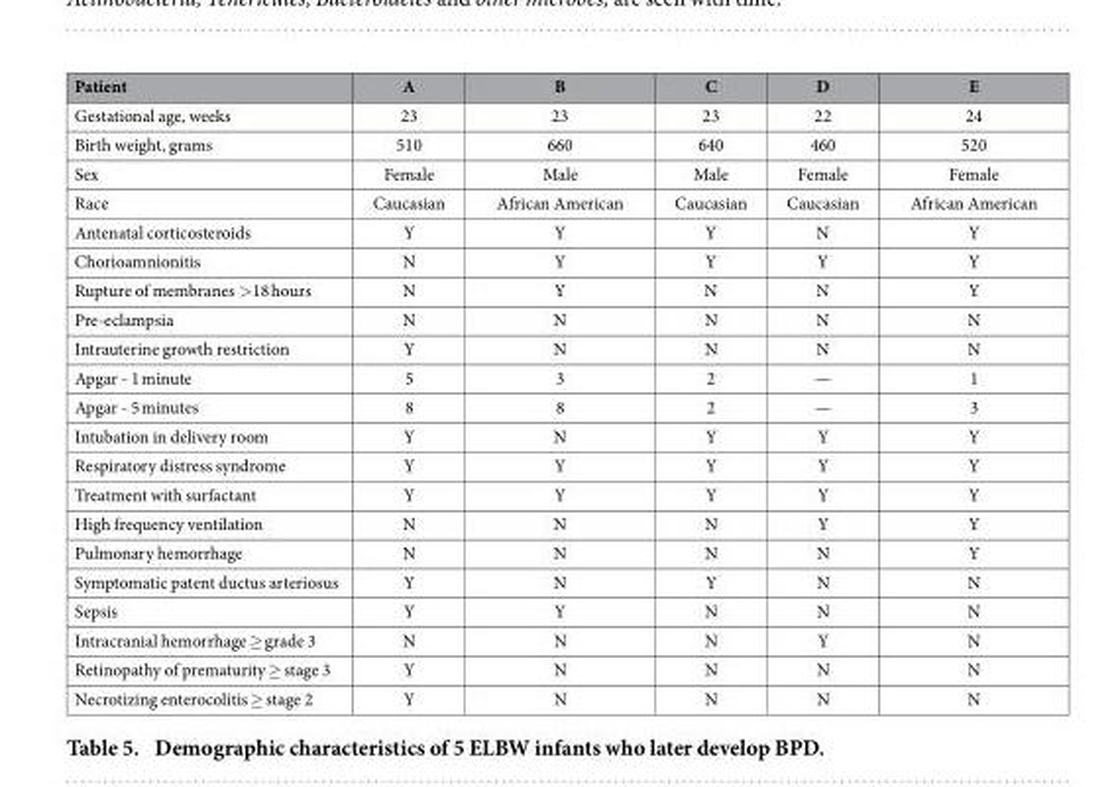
<table><thead><tr><td>Patient</td><td>A</td><td>B</td><td>C</td><td>D</td><td>E</td></tr></thead><tbody><tr><td>Gestational age, weeks</td><td>23</td><td>23</td><td>23</td><td>22</td><td>24</td></tr><tr><td>Birth weight, grams</td><td>510</td><td>660</td><td>640</td><td>460</td><td>520</td></tr><tr><td>Sex</td><td>Female</td><td>Male</td><td>Male</td><td>Female</td><td>Female</td></tr><tr><td>Race</td><td>Caucasian</td><td>African American</td><td>Caucasian</td><td>Caucasian</td><td>African American</td></tr><tr><td>Antenatal corticosteroids</td><td>Y</td><td>Y</td><td>Y</td><td>N</td><td>Y</td></tr><tr><td>Chorioamnionitis</td><td>N</td><td>Y</td><td>Y</td><td>Y</td><td>Y</td></tr><tr><td>Rupture of membranes &gt; 18 hours</td><td>N</td><td>Y</td><td>N</td><td>N</td><td>Y</td></tr><tr><td>Pre-eclampsia</td><td>N</td><td>N</td><td>N</td><td>N</td><td>N</td></tr><tr><td>Intrauterine growth restriction</td><td>Y</td><td>N</td><td>N</td><td>N</td><td>N</td></tr><tr><td>Apgar - 1 minute</td><td>5</td><td>3</td><td>2</td><td>—</td><td>1</td></tr><tr><td>Apgar - 5 minutes</td><td>8</td><td>8</td><td>2</td><td>—</td><td>3</td></tr><tr><td>Intubation in delivery room</td><td>Y</td><td>N</td><td>Y</td><td>Y</td><td>Y</td></tr><tr><td>Respiratory distress syndrome</td><td>Y</td><td>Y</td><td>Y</td><td>Y</td><td>Y</td></tr><tr><td>Treatment with surfactant</td><td>Y</td><td>Y</td><td>Y</td><td>Y</td><td>Y</td></tr><tr><td>High frequency ventilation</td><td>N</td><td>N</td><td>N</td><td>Y</td><td>Y</td></tr><tr><td>Pulmonary hemorrhage</td><td>N</td><td>N</td><td>N</td><td>N</td><td>Y</td></tr><tr><td>Symptomatic patent ductus arteriosus</td><td>Y</td><td>N</td><td>Y</td><td>N</td><td>N</td></tr><tr><td>Sepsis</td><td>Y</td><td>Y</td><td>N</td><td>N</td><td>N</td></tr><tr><td>Intracranial hemorrhage ≥ grade 3</td><td>N</td><td>N</td><td>N</td><td>Y</td><td>N</td></tr><tr><td>Retinopathy of prematurity ≥ stage 3</td><td>Y</td><td>N</td><td>N</td><td>N</td><td>N</td></tr><tr><td>Necrotizing enterocolitis ≥ stage 2</td><td>Y</td><td>N</td><td>N</td><td>N</td><td>N</td></tr></tbody></table>